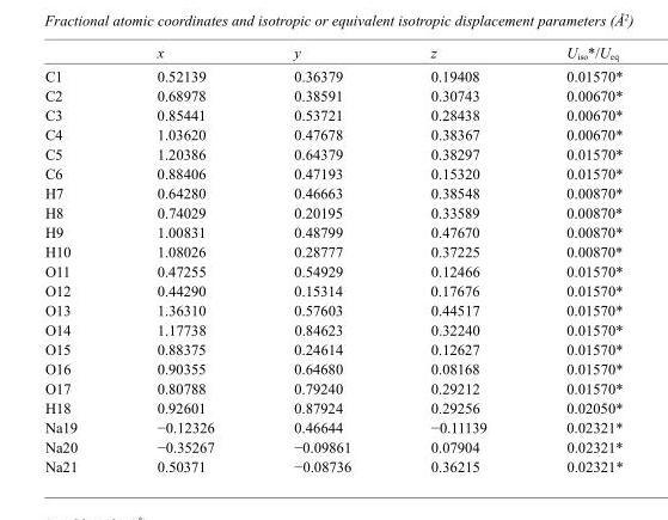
<table><thead><tr><td></td><td>x</td><td>y</td><td>z</td><td>U<sub>iso</sub>*/U<sub>eq</sub></td></tr></thead><tbody><tr><td>C1</td><td>0.52139</td><td>0.36379</td><td>0.19408</td><td>0.01570*</td></tr><tr><td>C2</td><td>0.68978</td><td>0.38591</td><td>0.30743</td><td>0.00670*</td></tr><tr><td>C3</td><td>0.85441</td><td>0.53721</td><td>0.28438</td><td>0.00670*</td></tr><tr><td>C4</td><td>1.03620</td><td>0.47678</td><td>0.38367</td><td>0.00670*</td></tr><tr><td>C5</td><td>1.20386</td><td>0.64379</td><td>0.38297</td><td>0.01570*</td></tr><tr><td>C6</td><td>0.88406</td><td>0.47193</td><td>0.15320</td><td>0.01570*</td></tr><tr><td>H7</td><td>0.64280</td><td>0.46663</td><td>0.38548</td><td>0.00870*</td></tr><tr><td>H8</td><td>0.74029</td><td>0.20195</td><td>0.33589</td><td>0.00870*</td></tr><tr><td>H9</td><td>1.00831</td><td>0.48799</td><td>0.47670</td><td>0.00870*</td></tr><tr><td>H10</td><td>1.08026</td><td>0.28777</td><td>0.37225</td><td>0.00870*</td></tr><tr><td>O11</td><td>0.47255</td><td>0.54929</td><td>0.12466</td><td>0.01570*</td></tr><tr><td>O12</td><td>0.44290</td><td>0.15314</td><td>0.17676</td><td>0.01570*</td></tr><tr><td>O13</td><td>1.36310</td><td>0.57603</td><td>0.44517</td><td>0.01570*</td></tr><tr><td>O14</td><td>1.17738</td><td>0.84623</td><td>0.32240</td><td>0.01570*</td></tr><tr><td>O15</td><td>0.88375</td><td>0.24614</td><td>0.12627</td><td>0.01570*</td></tr><tr><td>O16</td><td>0.90355</td><td>0.64680</td><td>0.08168</td><td>0.01570*</td></tr><tr><td>O17</td><td>0.80788</td><td>0.79240</td><td>0.29212</td><td>0.01570*</td></tr><tr><td>H18</td><td>0.92601</td><td>0.87924</td><td>0.29256</td><td>0.02050*</td></tr><tr><td>Na19</td><td>−0.12326</td><td>0.46644</td><td>−0.11139</td><td>0.02321*</td></tr><tr><td>Na20</td><td>−0.35267</td><td>−0.09861</td><td>0.07904</td><td>0.02321*</td></tr><tr><td>Na21</td><td>0.50371</td><td>−0.08736</td><td>0.36215</td><td>0.02321*</td></tr></tbody></table>